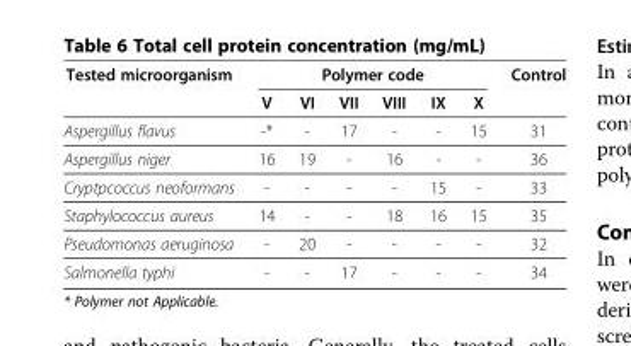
<table><thead><tr><td rowspan="2">Tested microorganism</td><td colspan="6">Polymer code</td><td rowspan="2">Control</td></tr><tr><td>V</td><td>VI</td><td>VII</td><td>VIII</td><td>IX</td><td>X</td></tr></thead><tbody><tr><td>Aspergillus flavus</td><td>-*</td><td>-</td><td>17</td><td>-</td><td>-</td><td>15</td><td>31</td></tr><tr><td>Aspergillus niger</td><td>16</td><td>19</td><td>-</td><td>16</td><td>-</td><td>-</td><td>36</td></tr><tr><td>Cryptpcoccus neoformans</td><td>-</td><td>-</td><td>-</td><td>-</td><td>15</td><td>-</td><td>33</td></tr><tr><td>Staphylococcus aureus</td><td>14</td><td>-</td><td>-</td><td>18</td><td>16</td><td>15</td><td>35</td></tr><tr><td>Pseudomonas aeruginosa</td><td>-</td><td>20</td><td>-</td><td>-</td><td>-</td><td>-</td><td>32</td></tr><tr><td>Salmonella typhi</td><td>-</td><td>-</td><td>17</td><td>-</td><td>-</td><td>-</td><td>34</td></tr></tbody></table>